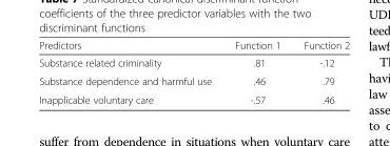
<table><thead><tr><td>Predictors</td><td>Function 1</td><td>Function 2</td></tr></thead><tbody><tr><td>Substance related criminality</td><td>.81</td><td>-.12</td></tr><tr><td>Substance dependence and harmful use</td><td>.46</td><td>.79</td></tr><tr><td>Inapplicable voluntary care</td><td>-.57</td><td>.46</td></tr></tbody></table>